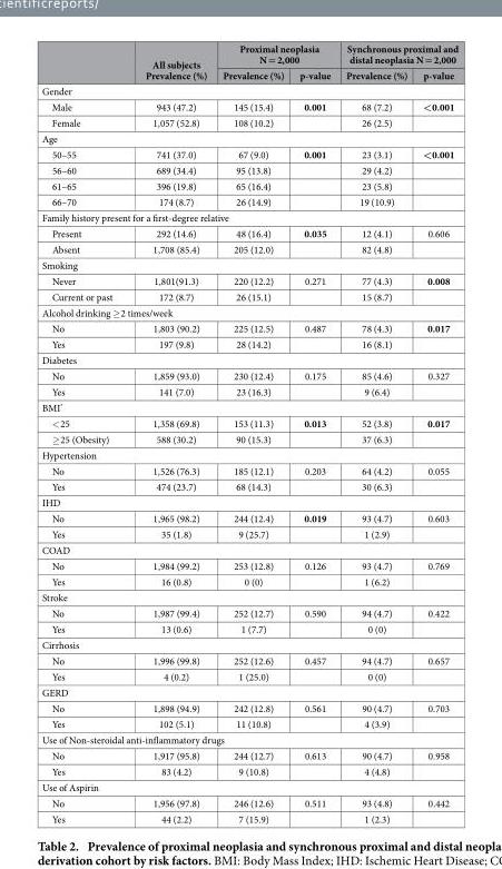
<table><thead><tr><td rowspan="2"></td><td rowspan="2">All subjects Prevalence (%)</td><td colspan="2">Proximal neoplasia N = 2,000</td><td colspan="2">Synchronous proximal and distal neoplasia N = 2,000</td></tr><tr><td>Prevalence (%)</td><td>p-value</td><td>Prevalence (%)</td><td>p-value</td></tr></thead><tbody><tr><td colspan="6">Gender</td></tr><tr><td>Male</td><td>943 (47.2)</td><td>145 (15.4)</td><td>0.001</td><td>68 (7.2)</td><td>&lt;0.001</td></tr><tr><td>Female</td><td>1,057 (52.8)</td><td>108 (10.2)</td><td></td><td>26 (2.5)</td><td></td></tr><tr><td colspan="6">Age</td></tr><tr><td>50–55</td><td>741 (37.0)</td><td>67 (9.0)</td><td>0.001</td><td>23 (3.1)</td><td>&lt;0.001</td></tr><tr><td>56–60</td><td>689 (34.4)</td><td>95 (13.8)</td><td></td><td>29 (4.2)</td><td></td></tr><tr><td>61–65</td><td>396 (19.8)</td><td>65 (16.4)</td><td></td><td>23 (5.8)</td><td></td></tr><tr><td>66–70</td><td>174 (8.7)</td><td>26 (14.9)</td><td></td><td>19 (10.9)</td><td></td></tr><tr><td colspan="6">Family history present for a first-degree relative</td></tr><tr><td>Present</td><td>292 (14.6)</td><td>48 (16.4)</td><td>0.035</td><td>12 (4.1)</td><td>0.606</td></tr><tr><td>Absent</td><td>1,708 (85.4)</td><td>205 (12.0)</td><td></td><td>82 (4.8)</td><td></td></tr><tr><td colspan="6">Smoking</td></tr><tr><td>Never</td><td>1,801(91.3)</td><td>220 (12.2)</td><td>0.271</td><td>77 (4.3)</td><td>0.008</td></tr><tr><td>Current or past</td><td>172 (8.7)</td><td>26 (15.1)</td><td></td><td>15 (8.7)</td><td></td></tr><tr><td colspan="6">Alcohol drinking ≥ 2 times/week</td></tr><tr><td>No</td><td>1,803 (90.2)</td><td>225 (12.5)</td><td>0.487</td><td>78 (4.3)</td><td>0.017</td></tr><tr><td>Yes</td><td>197 (9.8)</td><td>28 (14.2)</td><td></td><td>16 (8.1)</td><td></td></tr><tr><td colspan="6">Diabetes</td></tr><tr><td>No</td><td>1,859 (93.0)</td><td>230 (12.4)</td><td>0.175</td><td>85 (4.6)</td><td>0.327</td></tr><tr><td>Yes</td><td>141 (7.0)</td><td>23 (16.3)</td><td></td><td>9 (6.4)</td><td></td></tr><tr><td colspan="6">BMI*</td></tr><tr><td>&lt; 25</td><td>1,358 (69.8)</td><td>153 (11.3)</td><td>0.013</td><td>52 (3.8)</td><td>0.017</td></tr><tr><td>≥ 25 (Obesity)</td><td>588 (30.2)</td><td>90 (15.3)</td><td></td><td>37 (6.3)</td><td></td></tr><tr><td colspan="6">Hypertension</td></tr><tr><td>No</td><td>1,526 (76.3)</td><td>185 (12.1)</td><td>0.203</td><td>64 (4.2)</td><td>0.055</td></tr><tr><td>Yes</td><td>474 (23.7)</td><td>68 (14.3)</td><td></td><td>30 (6.3)</td><td></td></tr><tr><td colspan="6">IHD</td></tr><tr><td>No</td><td>1,965 (98.2)</td><td>244 (12.4)</td><td>0.019</td><td>93 (4.7)</td><td>0.603</td></tr><tr><td>Yes</td><td>35 (1.8)</td><td>9 (25.7)</td><td></td><td>1 (2.9)</td><td></td></tr><tr><td colspan="6">COAD</td></tr><tr><td>No</td><td>1,984 (99.2)</td><td>253 (12.8)</td><td>0.126</td><td>93 (4.7)</td><td>0.769</td></tr><tr><td>Yes</td><td>16 (0.8)</td><td>0 (0)</td><td></td><td>1 (6.2)</td><td></td></tr><tr><td colspan="6">Stroke</td></tr><tr><td>No</td><td>1,987 (99.4)</td><td>252 (12.7)</td><td>0.590</td><td>94 (4.7)</td><td>0.422</td></tr><tr><td>Yes</td><td>13 (0.6)</td><td>1 (7.7)</td><td></td><td>0 (0)</td><td></td></tr><tr><td colspan="6">Cirrhosis</td></tr><tr><td>No</td><td>1,996 (99.8)</td><td>252 (12.6)</td><td>0.457</td><td>94 (4.7)</td><td>0.657</td></tr><tr><td>Yes</td><td>4 (0.2)</td><td>1 (25.0)</td><td></td><td>0 (0)</td><td></td></tr><tr><td colspan="6">GERD</td></tr><tr><td>No</td><td>1,898 (94.9)</td><td>242 (12.8)</td><td>0.561</td><td>90 (4.7)</td><td>0.703</td></tr><tr><td>Yes</td><td>102 (5.1)</td><td>11 (10.8)</td><td></td><td>4 (3.9)</td><td></td></tr><tr><td colspan="6">Use of Non-steroidal anti-inflammatory drugs</td></tr><tr><td>No</td><td>1,917 (95.8)</td><td>244 (12.7)</td><td>0.613</td><td>90 (4.7)</td><td>0.958</td></tr><tr><td>Yes</td><td>83 (4.2)</td><td>9 (10.8)</td><td></td><td>4 (4.8)</td><td></td></tr><tr><td colspan="6">Use of Aspirin</td></tr><tr><td>No</td><td>1,956 (97.8)</td><td>246 (12.6)</td><td>0.511</td><td>93 (4.8)</td><td>0.442</td></tr><tr><td>Yes</td><td>44 (2.2)</td><td>7 (15.9)</td><td></td><td>1 (2.3)</td><td></td></tr></tbody></table>